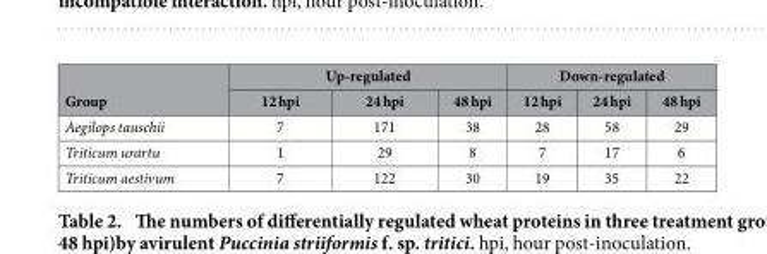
<table><thead><tr><td rowspan="2">Group</td><td colspan="3">Up-regulated</td><td colspan="3">Down-regulated</td></tr><tr><td>12 hpi</td><td>24 hpi</td><td>48 hpi</td><td>12 hpi</td><td>24 hpi</td><td>48 hpi</td></tr></thead><tbody><tr><td>Aegilops tauschii</td><td>7</td><td>171</td><td>38</td><td>28</td><td>58</td><td>29</td></tr><tr><td>Triticum urartu</td><td>1</td><td>29</td><td>8</td><td>7</td><td>17</td><td>6</td></tr><tr><td>Triticum aestivum</td><td>7</td><td>122</td><td>30</td><td>19</td><td>35</td><td>22</td></tr></tbody></table>